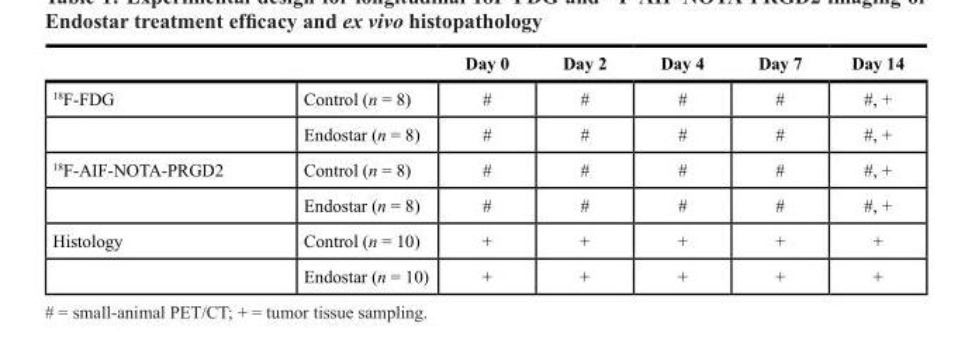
<table><thead><tr><td></td><td></td><td>Day 0</td><td>Day 2</td><td>Day 4</td><td>Day 7</td><td>Day 14</td></tr></thead><tbody><tr><td rowspan="2"><sup>18</sup>F-FDG</td><td>Control (n = 8)</td><td>#</td><td>#</td><td>#</td><td>#</td><td>#, +</td></tr><tr><td>Endostar (n = 8)</td><td>#</td><td>#</td><td>#</td><td>#</td><td>#, +</td></tr><tr><td rowspan="2"><sup>18</sup>F-AIF-NOTA-PRGD2</td><td>Control (n = 8)</td><td>#</td><td>#</td><td>#</td><td>#</td><td>#, +</td></tr><tr><td>Endostar (n = 8)</td><td>#</td><td>#</td><td>#</td><td>#</td><td>#, +</td></tr><tr><td rowspan="2">Histology</td><td>Control (n = 10)</td><td>+</td><td>+</td><td>+</td><td>+</td><td>+</td></tr><tr><td>Endostar (n = 10)</td><td>+</td><td>+</td><td>+</td><td>+</td><td>+</td></tr></tbody></table>